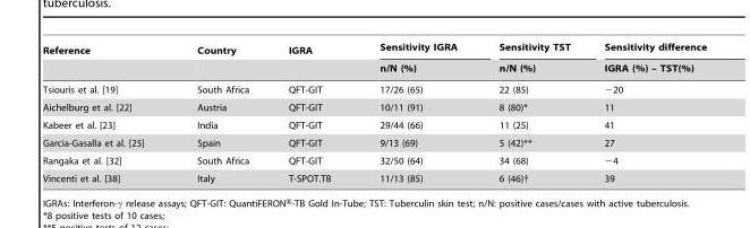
<table><thead><tr><td rowspan="2">Reference</td><td rowspan="2">Country</td><td rowspan="2">IGRA</td><td rowspan="2">Sensitivity IGRA n/N (%)</td><td rowspan="2">Sensitivity TST n/N (%)</td><td rowspan="2">Sensitivity difference IGRA (%) – TST(%)</td></tr><tr></tr></thead><tbody><tr><td>Tsiouris et al. [19]</td><td>South Africa</td><td>QFT-GIT</td><td>17/26 (65)</td><td>22 (85)</td><td>−20</td></tr><tr><td>Aichelburg et al. [22]</td><td>Austria</td><td>QFT-GIT</td><td>10/11 (91)</td><td>8 (80)*</td><td>11</td></tr><tr><td>Kabeer et al. [23]</td><td>India</td><td>QFT-GIT</td><td>29/44 (66)</td><td>11 (25)</td><td>41</td></tr><tr><td>Garcia-Gasalla et al. [25]</td><td>Spain</td><td>QFT-GIT</td><td>9/13 (69)</td><td>5 (42)**</td><td>27</td></tr><tr><td>Rangaka et al. [32]</td><td>South Africa</td><td>QFT-GIT</td><td>32/50 (64)</td><td>34 (68)</td><td>−4</td></tr><tr><td>Vincenti et al. [38]</td><td>Italy</td><td>T-SPOT.TB</td><td>11/13 (85)</td><td>6 (46)†</td><td>39</td></tr></tbody></table>